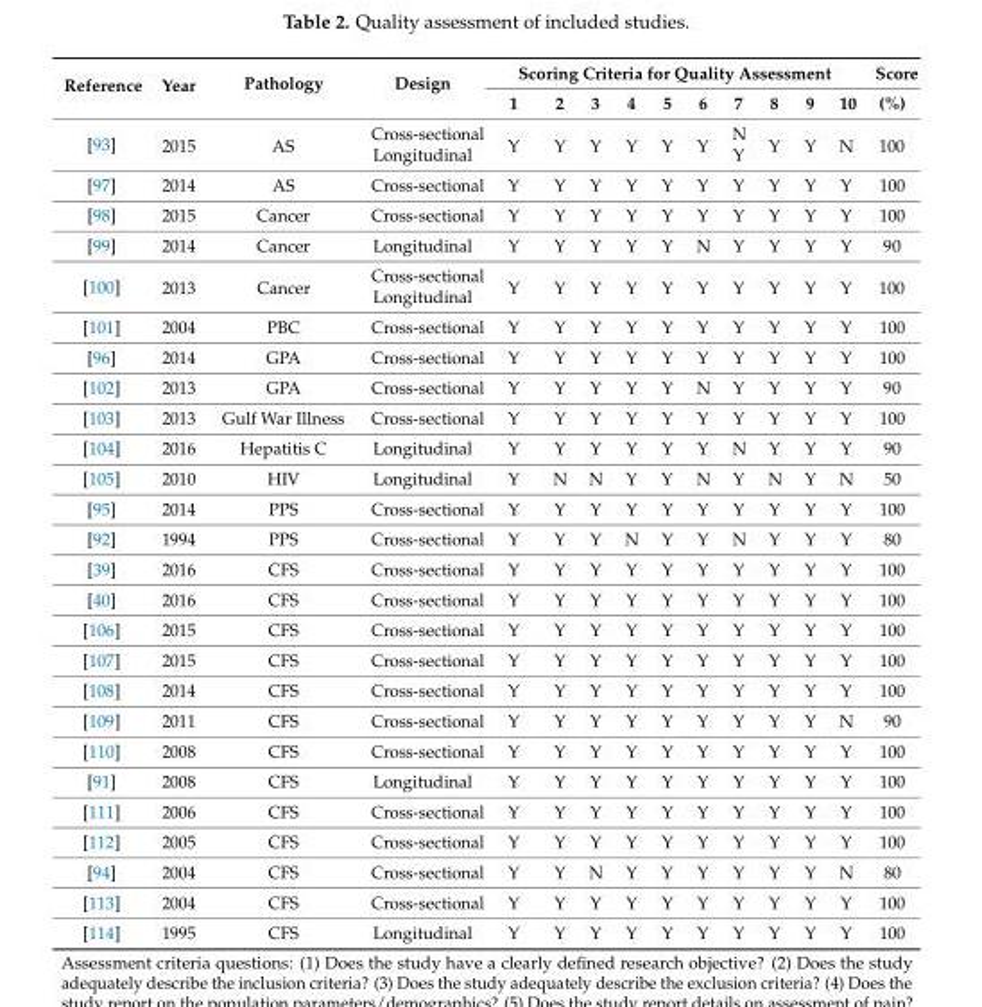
<table><thead><tr><td rowspan="2">Reference</td><td rowspan="2">Year</td><td rowspan="2">Pathology</td><td rowspan="2">Design</td><td colspan="10">Scoring Criteria for Quality Assessment</td><td rowspan="2">Score (%)</td></tr><tr><td>1</td><td>2</td><td>3</td><td>4</td><td>5</td><td>6</td><td>7</td><td>8</td><td>9</td><td>10</td></tr></thead><tbody><tr><td rowspan="2">[93]</td><td rowspan="2">2015</td><td rowspan="2">AS</td><td>Cross-sectional</td><td rowspan="2">Y</td><td rowspan="2">Y</td><td rowspan="2">Y</td><td rowspan="2">Y</td><td rowspan="2">Y</td><td rowspan="2">Y</td><td>N</td><td rowspan="2">Y</td><td rowspan="2">Y</td><td rowspan="2">N</td><td rowspan="2">100</td></tr><tr><td>Longitudinal</td><td>Y</td></tr><tr><td>[97]</td><td>2014</td><td>AS</td><td>Cross-sectional</td><td>Y</td><td>Y</td><td>Y</td><td>Y</td><td>Y</td><td>Y</td><td>Y</td><td>Y</td><td>Y</td><td>Y</td><td>100</td></tr><tr><td>[98]</td><td>2015</td><td>Cancer</td><td>Cross-sectional</td><td>Y</td><td>Y</td><td>Y</td><td>Y</td><td>Y</td><td>Y</td><td>Y</td><td>Y</td><td>Y</td><td>Y</td><td>100</td></tr><tr><td>[99]</td><td>2014</td><td>Cancer</td><td>Longitudinal</td><td>Y</td><td>Y</td><td>Y</td><td>Y</td><td>Y</td><td>N</td><td>Y</td><td>Y</td><td>Y</td><td>Y</td><td>90</td></tr><tr><td rowspan="2">[100]</td><td rowspan="2">2013</td><td rowspan="2">Cancer</td><td>Cross-sectional</td><td rowspan="2">Y</td><td rowspan="2">Y</td><td rowspan="2">Y</td><td rowspan="2">Y</td><td rowspan="2">Y</td><td rowspan="2">Y</td><td rowspan="2">Y</td><td rowspan="2">Y</td><td rowspan="2">Y</td><td rowspan="2">Y</td><td rowspan="2">100</td></tr><tr><td>Longitudinal</td></tr><tr><td>[101]</td><td>2004</td><td>PBC</td><td>Cross-sectional</td><td>Y</td><td>Y</td><td>Y</td><td>Y</td><td>Y</td><td>Y</td><td>Y</td><td>Y</td><td>Y</td><td>Y</td><td>100</td></tr><tr><td>[96]</td><td>2014</td><td>GPA</td><td>Cross-sectional</td><td>Y</td><td>Y</td><td>Y</td><td>Y</td><td>Y</td><td>Y</td><td>Y</td><td>Y</td><td>Y</td><td>Y</td><td>100</td></tr><tr><td>[102]</td><td>2013</td><td>GPA</td><td>Cross-sectional</td><td>Y</td><td>Y</td><td>Y</td><td>Y</td><td>Y</td><td>N</td><td>Y</td><td>Y</td><td>Y</td><td>Y</td><td>90</td></tr><tr><td>[103]</td><td>2013</td><td>Gulf War Illness</td><td>Cross-sectional</td><td>Y</td><td>Y</td><td>Y</td><td>Y</td><td>Y</td><td>Y</td><td>Y</td><td>Y</td><td>Y</td><td>Y</td><td>100</td></tr><tr><td>[104]</td><td>2016</td><td>Hepatitis C</td><td>Longitudinal</td><td>Y</td><td>Y</td><td>Y</td><td>Y</td><td>Y</td><td>Y</td><td>N</td><td>Y</td><td>Y</td><td>Y</td><td>90</td></tr><tr><td>[105]</td><td>2010</td><td>HIV</td><td>Longitudinal</td><td>Y</td><td>N</td><td>N</td><td>Y</td><td>Y</td><td>N</td><td>Y</td><td>N</td><td>Y</td><td>N</td><td>50</td></tr><tr><td>[95]</td><td>2014</td><td>PPS</td><td>Cross-sectional</td><td>Y</td><td>Y</td><td>Y</td><td>Y</td><td>Y</td><td>Y</td><td>Y</td><td>Y</td><td>Y</td><td>Y</td><td>100</td></tr><tr><td>[92]</td><td>1994</td><td>PPS</td><td>Cross-sectional</td><td>Y</td><td>Y</td><td>Y</td><td>N</td><td>Y</td><td>Y</td><td>N</td><td>Y</td><td>Y</td><td>Y</td><td>80</td></tr><tr><td>[39]</td><td>2016</td><td>CFS</td><td>Cross-sectional</td><td>Y</td><td>Y</td><td>Y</td><td>Y</td><td>Y</td><td>Y</td><td>Y</td><td>Y</td><td>Y</td><td>Y</td><td>100</td></tr><tr><td>[40]</td><td>2016</td><td>CFS</td><td>Cross-sectional</td><td>Y</td><td>Y</td><td>Y</td><td>Y</td><td>Y</td><td>Y</td><td>Y</td><td>Y</td><td>Y</td><td>Y</td><td>100</td></tr><tr><td>[106]</td><td>2015</td><td>CFS</td><td>Cross-sectional</td><td>Y</td><td>Y</td><td>Y</td><td>Y</td><td>Y</td><td>Y</td><td>Y</td><td>Y</td><td>Y</td><td>Y</td><td>100</td></tr><tr><td>[107]</td><td>2015</td><td>CFS</td><td>Cross-sectional</td><td>Y</td><td>Y</td><td>Y</td><td>Y</td><td>Y</td><td>Y</td><td>Y</td><td>Y</td><td>Y</td><td>Y</td><td>100</td></tr><tr><td>[108]</td><td>2014</td><td>CFS</td><td>Cross-sectional</td><td>Y</td><td>Y</td><td>Y</td><td>Y</td><td>Y</td><td>Y</td><td>Y</td><td>Y</td><td>Y</td><td>Y</td><td>100</td></tr><tr><td>[109]</td><td>2011</td><td>CFS</td><td>Cross-sectional</td><td>Y</td><td>Y</td><td>Y</td><td>Y</td><td>Y</td><td>Y</td><td>Y</td><td>Y</td><td>Y</td><td>N</td><td>90</td></tr><tr><td>[110]</td><td>2008</td><td>CFS</td><td>Cross-sectional</td><td>Y</td><td>Y</td><td>Y</td><td>Y</td><td>Y</td><td>Y</td><td>Y</td><td>Y</td><td>Y</td><td>Y</td><td>100</td></tr><tr><td>[91]</td><td>2008</td><td>CFS</td><td>Longitudinal</td><td>Y</td><td>Y</td><td>Y</td><td>Y</td><td>Y</td><td>Y</td><td>Y</td><td>Y</td><td>Y</td><td>Y</td><td>100</td></tr><tr><td>[111]</td><td>2006</td><td>CFS</td><td>Cross-sectional</td><td>Y</td><td>Y</td><td>Y</td><td>Y</td><td>Y</td><td>Y</td><td>Y</td><td>Y</td><td>Y</td><td>Y</td><td>100</td></tr><tr><td>[112]</td><td>2005</td><td>CFS</td><td>Cross-sectional</td><td>Y</td><td>Y</td><td>Y</td><td>Y</td><td>Y</td><td>Y</td><td>Y</td><td>Y</td><td>Y</td><td>Y</td><td>100</td></tr><tr><td>[94]</td><td>2004</td><td>CFS</td><td>Cross-sectional</td><td>Y</td><td>Y</td><td>N</td><td>Y</td><td>Y</td><td>Y</td><td>Y</td><td>Y</td><td>Y</td><td>N</td><td>80</td></tr><tr><td>[113]</td><td>2004</td><td>CFS</td><td>Cross-sectional</td><td>Y</td><td>Y</td><td>Y</td><td>Y</td><td>Y</td><td>Y</td><td>Y</td><td>Y</td><td>Y</td><td>Y</td><td>100</td></tr><tr><td>[114]</td><td>1995</td><td>CFS</td><td>Longitudinal</td><td>Y</td><td>Y</td><td>Y</td><td>Y</td><td>Y</td><td>Y</td><td>Y</td><td>Y</td><td>Y</td><td>Y</td><td>100</td></tr></tbody></table>